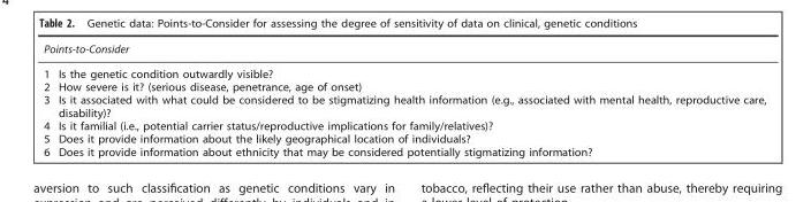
<table><thead><tr><td colspan="2">Points-to-Consider</td></tr><tr><td>1</td><td>Is the genetic condition outwardly visible?</td></tr></thead><tbody><tr><td>2</td><td>How severe is it? (serious disease, penetrance, age of onset)</td></tr><tr><td>3</td><td>Is it associated with what could be considered to be stigmatizing health information (e.g., associated with mental health, reproductive care, disability)?</td></tr><tr><td>4</td><td>Is it familial (i.e., potential carrier status/reproductive implications for family/relatives)?</td></tr><tr><td>5</td><td>Does it provide information about the likely geographical location of individuals?</td></tr><tr><td>6</td><td>Does it provide information about ethnicity that may be considered potentially stigmatizing information?</td></tr></tbody></table>